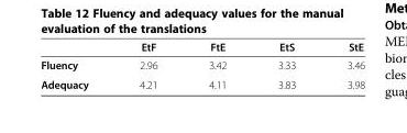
<table><thead><tr><td></td><td>EtF</td><td>FtE</td><td>EtS</td><td>StE</td></tr></thead><tbody><tr><td>Fluency</td><td>2.96</td><td>3.42</td><td>3.33</td><td>3.46</td></tr><tr><td>Adequacy</td><td>4.21</td><td>4.11</td><td>3.83</td><td>3.98</td></tr></tbody></table>